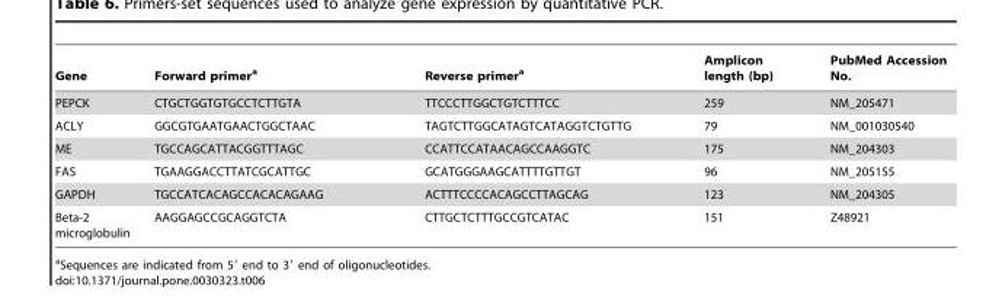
<table><thead><tr><td>Gene</td><td>Forward primer<sup>a</sup></td><td>Reverse primer<sup>a</sup></td><td>Amplicon length (bp)</td><td>PubMed Accession No.</td></tr></thead><tbody><tr><td>PEPCK</td><td>CTGCTGGTGTGCCTCTTGTA</td><td>TTCCCTTGGCTGTCTTTCC</td><td>259</td><td>NM_205471</td></tr><tr><td>ACLY</td><td>GGCGTGAATGAACTGGCTAAC</td><td>TAGTCTTGGCATAGTCATAGGTCTGTTG</td><td>79</td><td>NM_001030540</td></tr><tr><td>ME</td><td>TGCCAGCATTACGGTTTAGC</td><td>CCATTCCATAACAGCCAAGGTC</td><td>175</td><td>NM_204303</td></tr><tr><td>FAS</td><td>TGAAGGACCTTATCGCATTGC</td><td>GCATGGGAAGCATTTTGTTGT</td><td>96</td><td>NM_205155</td></tr><tr><td>GAPDH</td><td>TGCCATCACAGCCACACAGAAG</td><td>ACTTTCCCCACAGCCTTAGCAG</td><td>123</td><td>NM_204305</td></tr><tr><td>Beta-2 microglobulin</td><td>AAGGAGCCGCAGGTCTA</td><td>CTTGCTCTTTGCCGTCATAC</td><td>151</td><td>Z48921</td></tr></tbody></table>